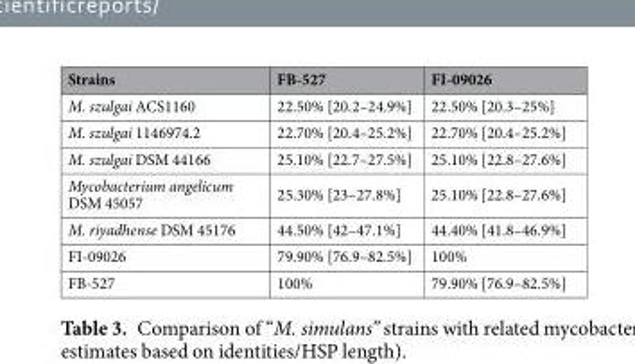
<table><thead><tr><td>Strains</td><td>FB-527</td><td>FI-09026</td></tr></thead><tbody><tr><td>M. szulgai ACS1160</td><td>22.50% [20.2–24.9%]</td><td>22.50% [20.3–25%]</td></tr><tr><td>M. szulgai 1146974.2</td><td>22.70% [20.4–25.2%]</td><td>22.70% [20.4–25.2%]</td></tr><tr><td>M. szulgai DSM 44166</td><td>25.10% [22.7–27.5%]</td><td>25.10% [22.8–27.6%]</td></tr><tr><td>Mycobacterium angelicum DSM 45057</td><td>25.30% [23–27.8%]</td><td>25.10% [22.8–27.6%]</td></tr><tr><td>M. riyadhense DSM 45176</td><td>44.50% [42–47.1%]</td><td>44.40% [41.8–46.9%]</td></tr><tr><td>FI-09026</td><td>79.90% [76.9–82.5%]</td><td>100%</td></tr><tr><td>FB-527</td><td>100%</td><td>79.90% [76.9–82.5%]</td></tr></tbody></table>